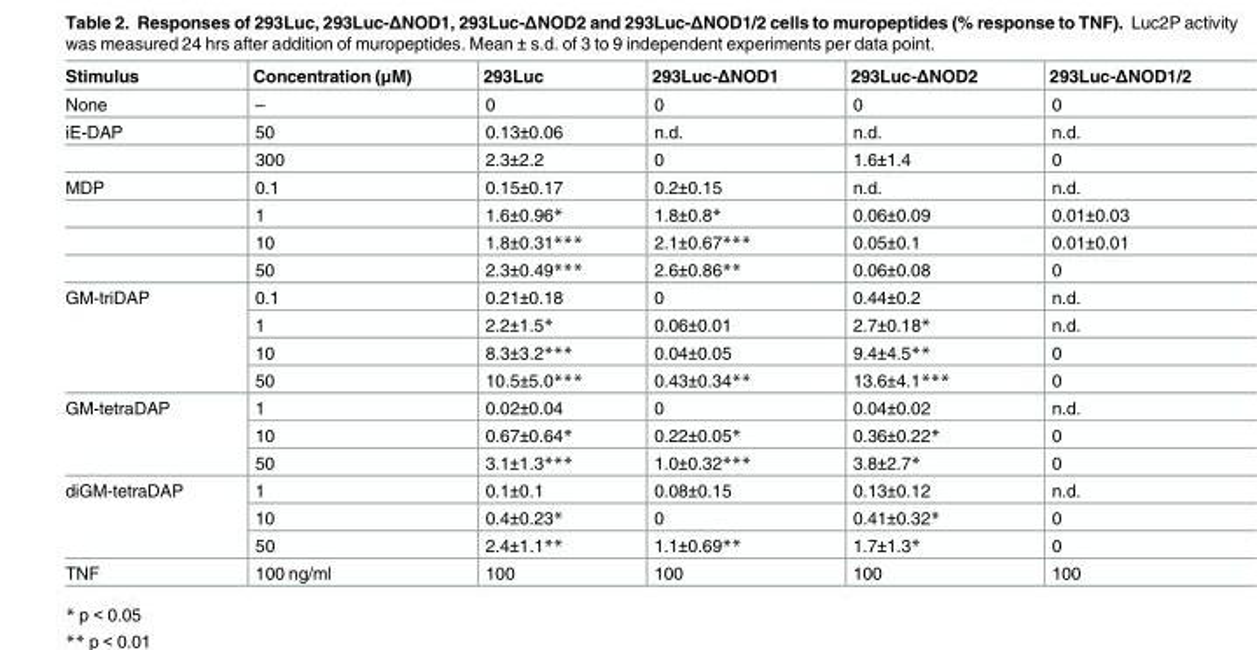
<table><thead><tr><td>Stimulus</td><td>Concentration (μM)</td><td>293Luc</td><td>293Luc-ΔNOD1</td><td>293Luc-ΔNOD2</td><td>293Luc-ΔNOD1/2</td></tr></thead><tbody><tr><td>None</td><td>–</td><td>0</td><td>0</td><td>0</td><td>0</td></tr><tr><td rowspan="2">iE-DAP</td><td>50</td><td>0.13±0.06</td><td>n.d.</td><td>n.d.</td><td>n.d.</td></tr><tr><td>300</td><td>2.3±2.2</td><td>0</td><td>1.6±1.4</td><td>0</td></tr><tr><td rowspan="4">MDP</td><td>0.1</td><td>0.15±0.17</td><td>0.2±0.15</td><td>n.d.</td><td>n.d.</td></tr><tr><td>1</td><td>1.6±0.96*</td><td>1.8±0.8*</td><td>0.06±0.09</td><td>0.01±0.03</td></tr><tr><td>10</td><td>1.8±0.31***</td><td>2.1±0.67***</td><td>0.05±0.1</td><td>0.01±0.01</td></tr><tr><td>50</td><td>2.3±0.49***</td><td>2.6±0.86**</td><td>0.06±0.08</td><td>0</td></tr><tr><td rowspan="4">GM-triDAP</td><td>0.1</td><td>0.21±0.18</td><td>0</td><td>0.44±0.2</td><td>n.d.</td></tr><tr><td>1</td><td>2.2±1.5*</td><td>0.06±0.01</td><td>2.7±0.18*</td><td>n.d.</td></tr><tr><td>10</td><td>8.3±3.2***</td><td>0.04±0.05</td><td>9.4±4.5**</td><td>0</td></tr><tr><td>50</td><td>10.5±5.0***</td><td>0.43±0.34**</td><td>13.6±4.1***</td><td>0</td></tr><tr><td rowspan="3">GM-tetraDAP</td><td>1</td><td>0.02±0.04</td><td>0</td><td>0.04±0.02</td><td>n.d.</td></tr><tr><td>10</td><td>0.67±0.64*</td><td>0.22±0.05*</td><td>0.36±0.22*</td><td>0</td></tr><tr><td>50</td><td>3.1±1.3***</td><td>1.0±0.32***</td><td>3.8±2.7*</td><td>0</td></tr><tr><td rowspan="3">diGM-tetraDAP</td><td>1</td><td>0.1±0.1</td><td>0.08±0.15</td><td>0.13±0.12</td><td>n.d.</td></tr><tr><td>10</td><td>0.4±0.23*</td><td>0</td><td>0.41±0.32*</td><td>0</td></tr><tr><td>50</td><td>2.4±1.1**</td><td>1.1±0.69**</td><td>1.7±1.3*</td><td>0</td></tr><tr><td>TNF</td><td>100 ng/ml</td><td>100</td><td>100</td><td>100</td><td>100</td></tr></tbody></table>